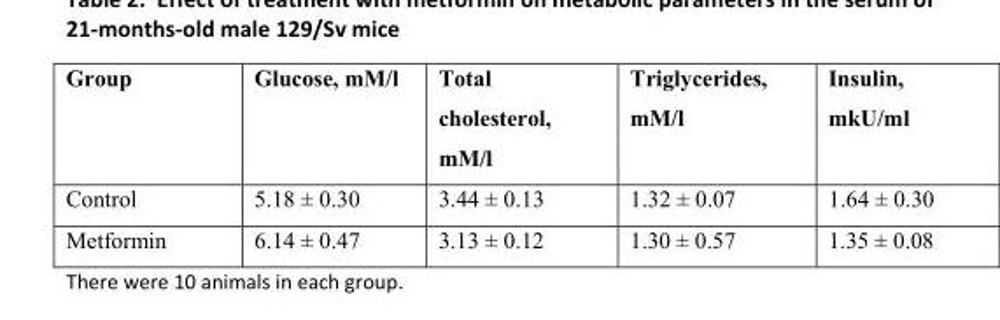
<table><thead><tr><td>Group</td><td>Glucose, mM/l</td><td>Total cholesterol, mM/l</td><td>Triglycerides, mM/l</td><td>Insulin, mkU/ml</td></tr></thead><tbody><tr><td>Control</td><td>5.18 ± 0.30</td><td>3.44 ± 0.13</td><td>1.32 ± 0.07</td><td>1.64 ± 0.30</td></tr><tr><td>Metformin</td><td>6.14 ± 0.47</td><td>3.13 ± 0.12</td><td>1.30 ± 0.57</td><td>1.35 ± 0.08</td></tr></tbody></table>